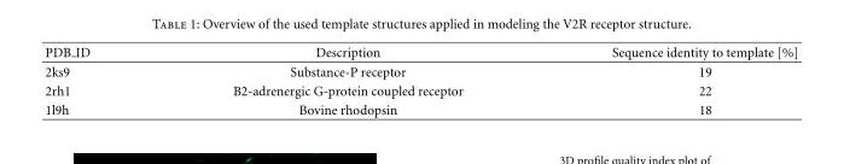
<table><thead><tr><td>PDB ID</td><td>Description</td><td>Sequence identity to template [%]</td></tr></thead><tbody><tr><td>2ks9</td><td>Substance-P receptor</td><td>19</td></tr><tr><td>2rh1</td><td>B2-adrenergic G-protein coupled receptor</td><td>22</td></tr><tr><td>1l9h</td><td>Bovine rhodopsin</td><td>18</td></tr></tbody></table>